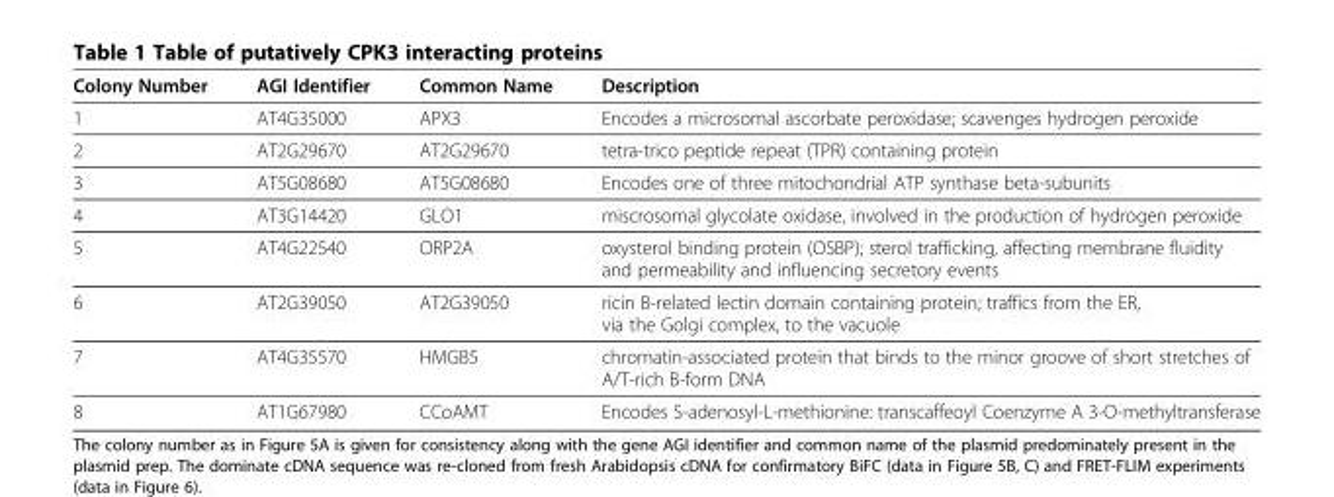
<table><thead><tr><td>Colony Number</td><td>AGI Identifier</td><td>Common Name</td><td>Description</td></tr></thead><tbody><tr><td>1</td><td>AT4G35000</td><td>APX3</td><td>Encodes a microsomal ascorbate peroxidase; scavenges hydrogen peroxide</td></tr><tr><td>2</td><td>AT2G29670</td><td>AT2G29670</td><td>tetra-trico peptide repeat (TPR) containing protein</td></tr><tr><td>3</td><td>AT5G08680</td><td>AT5G08680</td><td>Encodes one of three mitochondrial ATP synthase beta-subunits</td></tr><tr><td>4</td><td>AT3G14420</td><td>GLO1</td><td>miscrosomal glycolate oxidase, involved in the production of hydrogen peroxide</td></tr><tr><td>5</td><td>AT4G22540</td><td>ORP2A</td><td>oxysterol binding protein (OSBP); sterol trafficking, affecting membrane fluidity and permeability and influencing secretory events</td></tr><tr><td>6</td><td>AT2G39050</td><td>AT2G39050</td><td>ricin B-related lectin domain containing protein; traffics from the ER, via the Golgi complex, to the vacuole</td></tr><tr><td>7</td><td>AT4G35570</td><td>HMGB5</td><td>chromatin-associated protein that binds to the minor groove of short stretches of A/T-rich B-form DNA</td></tr><tr><td>8</td><td>AT1G67980</td><td>CCoAMT</td><td>Encodes S-adenosyl-L-methionine: transcaffeoyl Coenzyme A 3-O-methyltransferase</td></tr></tbody></table>